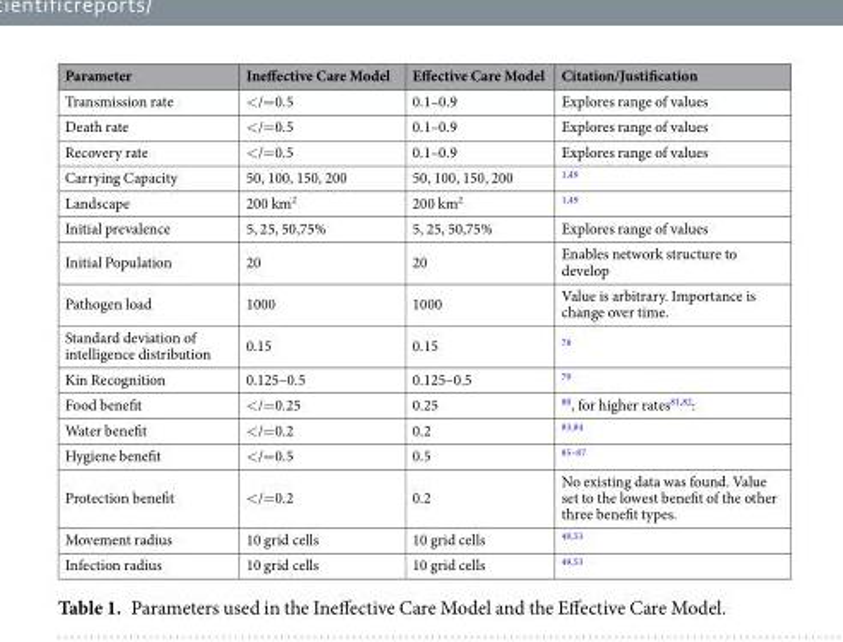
<table><thead><tr><td>Parameter</td><td>Ineffective Care Model</td><td>Effective Care Model</td><td>Citation/Justification</td></tr></thead><tbody><tr><td>Transmission rate</td><td>&lt;/=0.5</td><td>0.1–0.9</td><td>Explores range of values</td></tr><tr><td>Death rate</td><td>&lt;/=0.5</td><td>0.1–0.9</td><td>Explores range of values</td></tr><tr><td>Recovery rate</td><td>&lt;/=0.5</td><td>0.1–0.9</td><td>Explores range of values</td></tr><tr><td>Carrying Capacity</td><td>50, 100, 150, 200</td><td>50, 100, 150, 200</td><td><sup>1,49</sup></td></tr><tr><td>Landscape</td><td>200 km<sup>2</sup></td><td>200 km<sup>2</sup></td><td><sup>1,49</sup></td></tr><tr><td>Initial prevalence</td><td>5, 25, 50,75%</td><td>5, 25, 50,75%</td><td>Explores range of values</td></tr><tr><td>Initial Population</td><td>20</td><td>20</td><td>Enables network structure to develop</td></tr><tr><td>Pathogen load</td><td>1000</td><td>1000</td><td>Value is arbitrary. Importance is change over time.</td></tr><tr><td>Standard deviation of intelligence distribution</td><td>0.15</td><td>0.15</td><td><sup>78</sup></td></tr><tr><td>Kin Recognition</td><td>0.125–0.5</td><td>0.125–0.5</td><td><sup>79</sup></td></tr><tr><td>Food benefit</td><td>&lt;/=0.25</td><td>0.25</td><td><sup>80</sup>, for higher rates<sup>81,82</sup>:</td></tr><tr><td>Water benefit</td><td>&lt;/=0.2</td><td>0.2</td><td><sup>83,84</sup></td></tr><tr><td>Hygiene benefit</td><td>&lt;/=0.5</td><td>0.5</td><td><sup>85–87</sup></td></tr><tr><td>Protection benefit</td><td>&lt;/=0.2</td><td>0.2</td><td>No existing data was found. Value set to the lowest benefit of the other three benefit types.</td></tr><tr><td>Movement radius</td><td>10 grid cells</td><td>10 grid cells</td><td><sup>49,53</sup></td></tr><tr><td>Infection radius</td><td>10 grid cells</td><td>10 grid cells</td><td><sup>49,53</sup></td></tr></tbody></table>